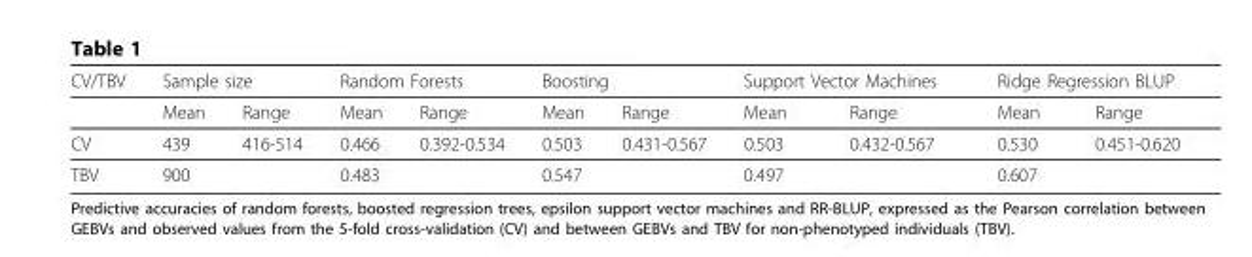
<table><thead><tr><td rowspan="2">CV/TBV</td><td colspan="2">Sample size</td><td colspan="2">Random Forests</td><td colspan="2">Boosting</td><td colspan="2">Support Vector Machines</td><td colspan="2">Ridge Regression BLUP</td></tr><tr><td>Mean</td><td>Range</td><td>Mean</td><td>Range</td><td>Mean</td><td>Range</td><td>Mean</td><td>Range</td><td>Mean</td><td>Range</td></tr></thead><tbody><tr><td>CV</td><td>439</td><td>416-514</td><td>0.466</td><td>0.392-0.534</td><td>0.503</td><td>0.431-0.567</td><td>0.503</td><td>0.432-0.567</td><td>0.530</td><td>0.451-0.620</td></tr><tr><td>TBV</td><td>900</td><td></td><td>0.483</td><td></td><td>0.547</td><td></td><td>0.497</td><td></td><td>0.607</td><td></td></tr></tbody></table>